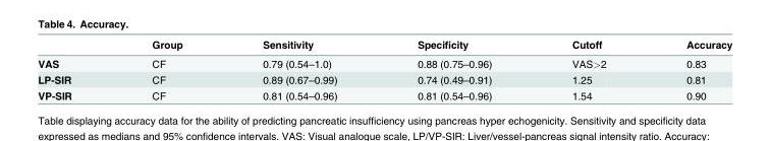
<table><thead><tr><td></td><td>Group</td><td>Sensitivity</td><td>Specificity</td><td>Cutoff</td><td>Accuracy</td></tr></thead><tbody><tr><td>VAS</td><td>CF</td><td>0.79 (0.54–1.0)</td><td>0.88 (0.75–0.96)</td><td>VAS&gt;2</td><td>0.83</td></tr><tr><td>LP-SIR</td><td>CF</td><td>0.89 (0.67–0.99)</td><td>0.74 (0.49–0.91)</td><td>1.25</td><td>0.81</td></tr><tr><td>VP-SIR</td><td>CF</td><td>0.81 (0.54–0.96)</td><td>0.81 (0.54–0.96)</td><td>1.54</td><td>0.90</td></tr></tbody></table>